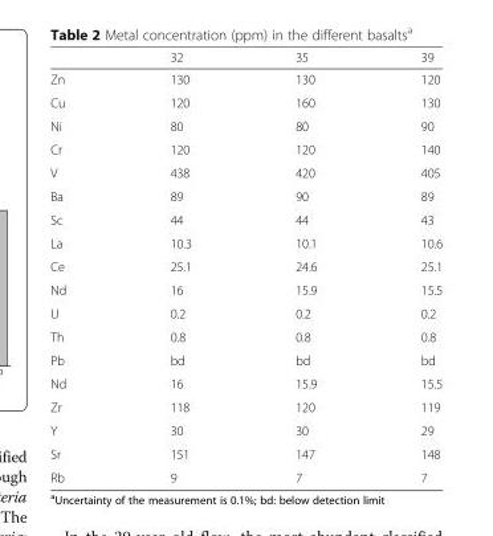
<table><thead><tr><td></td><td>32</td><td>35</td><td>39</td></tr></thead><tbody><tr><td>Zn</td><td>130</td><td>130</td><td>120</td></tr><tr><td>Cu</td><td>120</td><td>160</td><td>130</td></tr><tr><td>Ni</td><td>80</td><td>80</td><td>90</td></tr><tr><td>Cr</td><td>120</td><td>120</td><td>140</td></tr><tr><td>V</td><td>438</td><td>420</td><td>405</td></tr><tr><td>Ba</td><td>89</td><td>90</td><td>89</td></tr><tr><td>Sc</td><td>44</td><td>44</td><td>43</td></tr><tr><td>La</td><td>10.3</td><td>10.1</td><td>10.6</td></tr><tr><td>Ce</td><td>25.1</td><td>24.6</td><td>25.1</td></tr><tr><td>Nd</td><td>16</td><td>15.9</td><td>15.5</td></tr><tr><td>U</td><td>0.2</td><td>0.2</td><td>0.2</td></tr><tr><td>Th</td><td>0.8</td><td>0.8</td><td>0.8</td></tr><tr><td>Pb</td><td>bd</td><td>bd</td><td>bd</td></tr><tr><td>Nd</td><td>16</td><td>15.9</td><td>15.5</td></tr><tr><td>Zr</td><td>118</td><td>120</td><td>119</td></tr><tr><td>Y</td><td>30</td><td>30</td><td>29</td></tr><tr><td>Sr</td><td>151</td><td>147</td><td>148</td></tr><tr><td>Rb</td><td>9</td><td>7</td><td>7</td></tr></tbody></table>